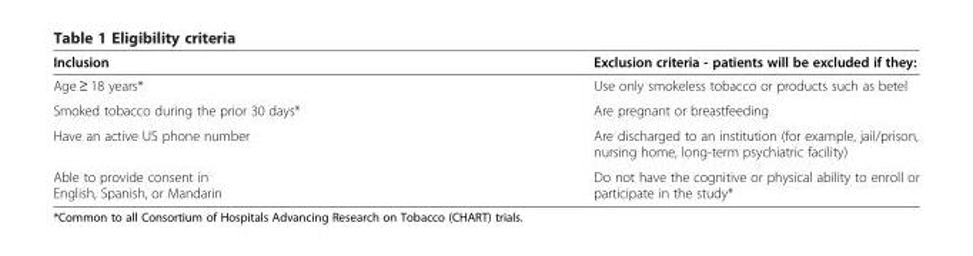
<table><thead><tr><td>Inclusion</td><td>Exclusion criteria - patients will be excluded if they:</td></tr></thead><tbody><tr><td>Age ≥ 18 years*</td><td>Use only smokeless tobacco or products such as betel</td></tr><tr><td>Smoked tobacco during the prior 30 days*</td><td>Are pregnant or breastfeeding</td></tr><tr><td>Have an active US phone number</td><td>Are discharged to an institution (for example, jail/prison, nursing home, long-term psychiatric facility)</td></tr><tr><td>Able to provide consent in English, Spanish, or Mandarin</td><td>Do not have the cognitive or physical ability to enroll or participate in the study*</td></tr></tbody></table>